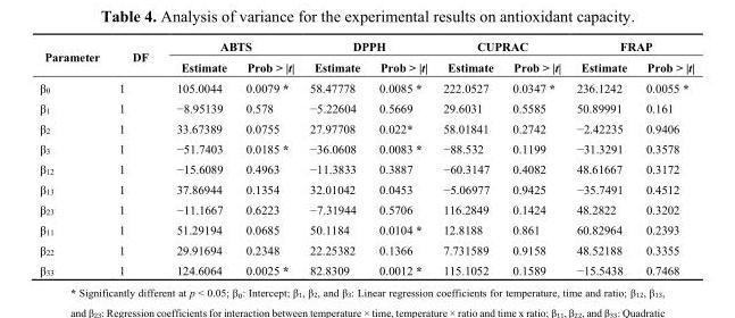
<table><thead><tr><td rowspan="2">Parameter</td><td rowspan="2">DF</td><td colspan="2">ABTS</td><td colspan="2">DPPH</td><td colspan="2">CUPRAC</td><td colspan="2">FRAP</td></tr><tr><td>Estimate</td><td>Prob &gt; |t|</td><td>Estimate</td><td>Prob &gt; |t|</td><td>Estimate</td><td>Prob &gt; |t|</td><td>Estimate</td><td>Prob &gt; |t|</td></tr></thead><tbody><tr><td>β<sub>0</sub></td><td>1</td><td>105.0044</td><td>0.0079 *</td><td>58.47778</td><td>0.0085 *</td><td>222.0527</td><td>0.0347 *</td><td>236.1242</td><td>0.0055 *</td></tr><tr><td>β<sub>1</sub></td><td>1</td><td>−8.95139</td><td>0.578</td><td>−5.22604</td><td>0.5669</td><td>29.6031</td><td>0.5585</td><td>50.89991</td><td>0.161</td></tr><tr><td>β<sub>2</sub></td><td>1</td><td>33.67389</td><td>0.0755</td><td>27.97708</td><td>0.022*</td><td>58.01841</td><td>0.2742</td><td>−2.42235</td><td>0.9406</td></tr><tr><td>β<sub>3</sub></td><td>1</td><td>−51.7403</td><td>0.0185 *</td><td>−36.0608</td><td>0.0083 *</td><td>−88.532</td><td>0.1199</td><td>−31.3291</td><td>0.3578</td></tr><tr><td>β<sub>12</sub></td><td>1</td><td>−15.6089</td><td>0.4963</td><td>−11.3833</td><td>0.3887</td><td>−60.3147</td><td>0.4082</td><td>48.61667</td><td>0.3172</td></tr><tr><td>β<sub>13</sub></td><td>1</td><td>37.86944</td><td>0.1354</td><td>32.01042</td><td>0.0453</td><td>−5.06977</td><td>0.9425</td><td>−35.7491</td><td>0.4512</td></tr><tr><td>β<sub>23</sub></td><td>1</td><td>−11.1667</td><td>0.6223</td><td>−7.31944</td><td>0.5706</td><td>116.2849</td><td>0.1424</td><td>48.2822</td><td>0.3202</td></tr><tr><td>β<sub>11</sub></td><td>1</td><td>51.29194</td><td>0.0685</td><td>50.1184</td><td>0.0104 *</td><td>12.8188</td><td>0.861</td><td>60.82964</td><td>0.2393</td></tr><tr><td>β<sub>22</sub></td><td>1</td><td>29.91694</td><td>0.2348</td><td>22.25382</td><td>0.1366</td><td>7.731589</td><td>0.9158</td><td>48.52188</td><td>0.3355</td></tr><tr><td>β<sub>33</sub></td><td>1</td><td>124.6064</td><td>0.0025 *</td><td>82.8309</td><td>0.0012 *</td><td>115.1052</td><td>0.1589</td><td>−15.5438</td><td>0.7468</td></tr></tbody></table>